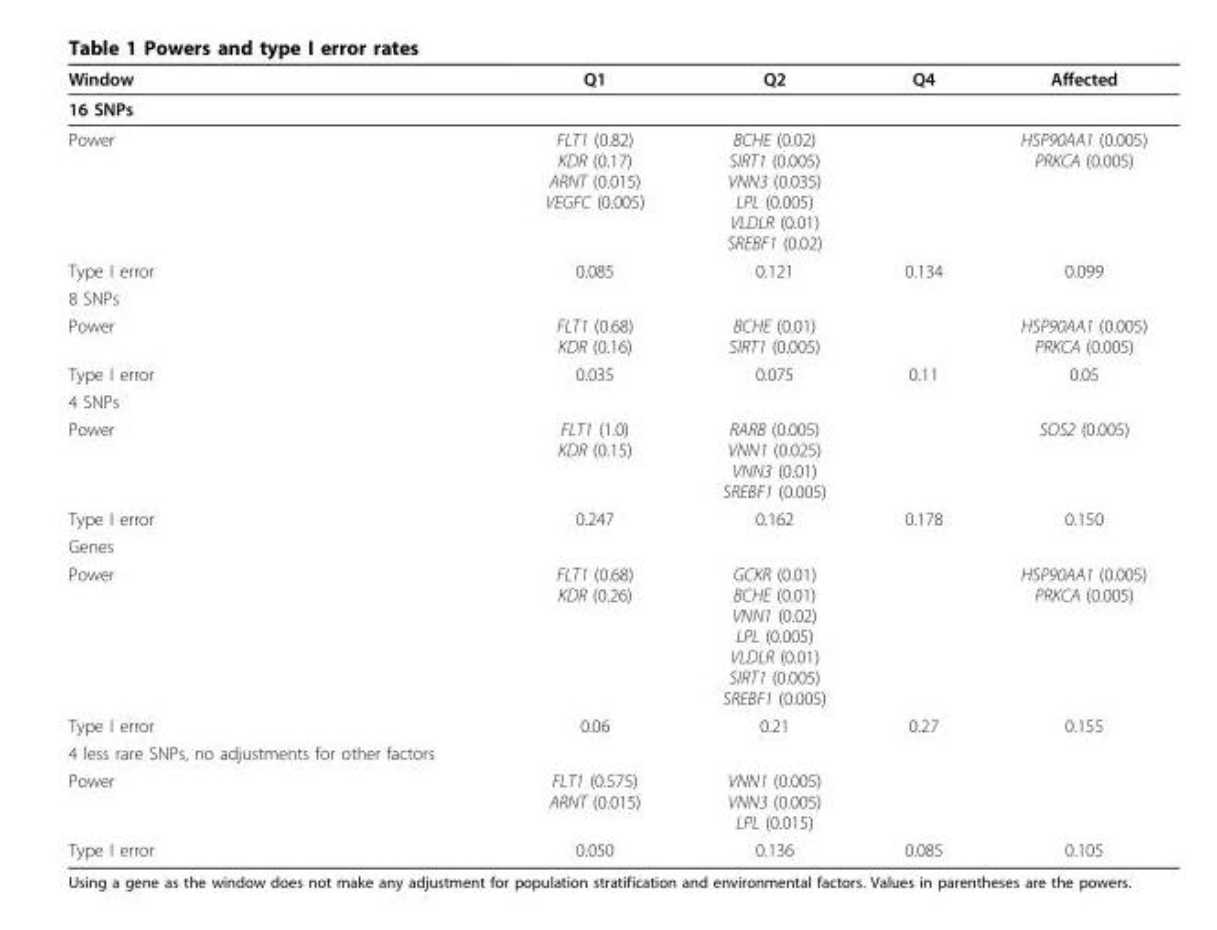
<table><thead><tr><td>Window</td><td>Q1</td><td>Q2</td><td>Q4</td><td>Affected</td></tr></thead><tbody><tr><td colspan="5">16 SNPs</td></tr><tr><td>Power</td><td>FLT1 (0.82) KDR (0.17) ARNT (0.015) VEGFC (0.005)</td><td>BCHE (0.02) SIRT1 (0.005) VNN3 (0.035) LPL (0.005) VLDLR (0.01) SREBF1 (0.02)</td><td></td><td>HSP90AA1 (0.005) PRKCA (0.005)</td></tr><tr><td>Type I error</td><td>0.085</td><td>0.121</td><td>0.134</td><td>0.099</td></tr><tr><td colspan="5">8 SNPs</td></tr><tr><td>Power</td><td>FLT1 (0.68) KDR (0.16)</td><td>BCHE (0.01) SIRT1 (0.005)</td><td></td><td>HSP90AA1 (0.005) PRKCA (0.005)</td></tr><tr><td>Type I error</td><td>0.035</td><td>0.075</td><td>0.11</td><td>0.05</td></tr><tr><td colspan="5">4 SNPs</td></tr><tr><td>Power</td><td>FLT1 (1.0) KDR (0.15)</td><td>RARB (0.005) VNN1 (0.025) VNN3 (0.01) SREBF1 (0.005)</td><td></td><td>SOS2 (0.005)</td></tr><tr><td>Type I error</td><td>0.247</td><td>0.162</td><td>0.178</td><td>0.150</td></tr><tr><td colspan="5">Genes</td></tr><tr><td>Power</td><td>FLT1 (0.68) KDR (0.26)</td><td>GCKR (0.01) BCHE (0.01) VNN1 (0.02) LPL (0.005) VLDLR (0.01) SIRT1 (0.005) SREBF1 (0.005)</td><td></td><td>HSP90AA1 (0.005) PRKCA (0.005)</td></tr><tr><td>Type I error</td><td>0.06</td><td>0.21</td><td>0.27</td><td>0.155</td></tr><tr><td colspan="5">4 less rare SNPs, no adjustments for other factors</td></tr><tr><td>Power</td><td>FLT1 (0.575) ARNT (0.015)</td><td>VNN1 (0.005) VNN3 (0.005) LPL (0.015)</td><td></td><td></td></tr><tr><td>Type I error</td><td>0.050</td><td>0.136</td><td>0.085</td><td>0.105</td></tr></tbody></table>